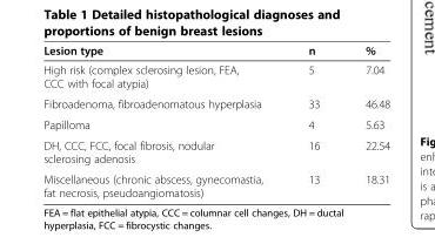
<table><thead><tr><td>Lesion type</td><td>n</td><td>%</td></tr></thead><tbody><tr><td>High risk (complex sclerosing lesion, FEA, CCC with focal atypia)</td><td>5</td><td>7.04</td></tr><tr><td>Fibroadenoma, fibroadenomatous hyperplasia</td><td>33</td><td>46.48</td></tr><tr><td>Papilloma</td><td>4</td><td>5.63</td></tr><tr><td>DH, CCC, FCC, focal fibrosis, nodular sclerosing adenosis</td><td>16</td><td>22.54</td></tr><tr><td>Miscellaneous (chronic abscess, gynecomastia, fat necrosis, pseudoangiomatosis)</td><td>13</td><td>18.31</td></tr></tbody></table>